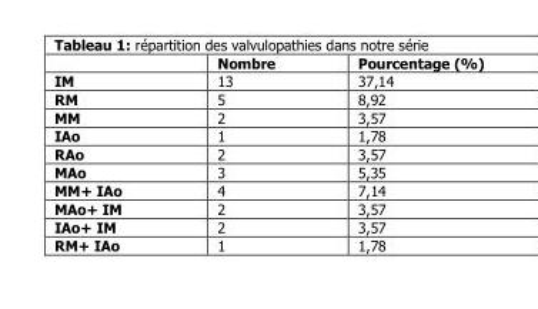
<table><thead><tr><td></td><td>Nombre</td><td>Pourcentage (%)</td></tr></thead><tbody><tr><td>IM</td><td>13</td><td>37,14</td></tr><tr><td>RM</td><td>5</td><td>8,92</td></tr><tr><td>MM</td><td>2</td><td>3,57</td></tr><tr><td>IAo</td><td>1</td><td>1,78</td></tr><tr><td>RAo</td><td>2</td><td>3,57</td></tr><tr><td>MAo</td><td>3</td><td>5,35</td></tr><tr><td>MM+ IAo</td><td>4</td><td>7,14</td></tr><tr><td>MAo+ IM</td><td>2</td><td>3,57</td></tr><tr><td>IAo+ IM</td><td>2</td><td>3,57</td></tr><tr><td>RM+ IAo</td><td>1</td><td>1,78</td></tr></tbody></table>